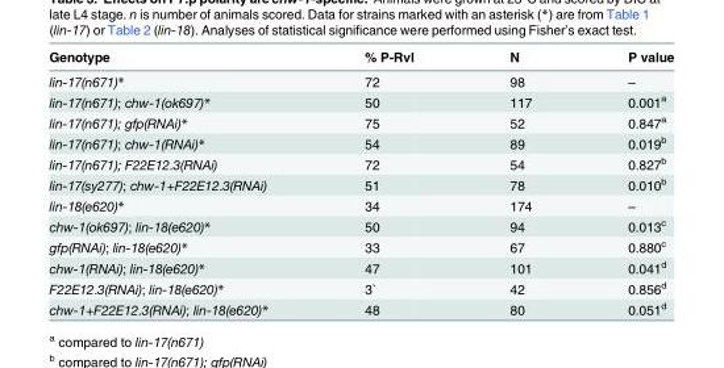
<table><thead><tr><td>Genotype</td><td>% P-Rvl</td><td>N</td><td>P value</td></tr></thead><tbody><tr><td>lin-17(n671)*</td><td>72</td><td>98</td><td>–</td></tr><tr><td>lin-17(n671); chw-1(ok697)*</td><td>50</td><td>117</td><td>0.001<sup>a</sup></td></tr><tr><td>lin-17(n671); gfp(RNAi)*</td><td>75</td><td>52</td><td>0.847<sup>a</sup></td></tr><tr><td>lin-17(n671); chw-1(RNAi)*</td><td>54</td><td>89</td><td>0.019<sup>b</sup></td></tr><tr><td>lin-17(n671); F22E12.3(RNAi)</td><td>72</td><td>54</td><td>0.827<sup>b</sup></td></tr><tr><td>lin-17(sy277); chw-1+F22E12.3(RNAi)</td><td>51</td><td>78</td><td>0.010<sup>b</sup></td></tr><tr><td>lin-18(e620)*</td><td>34</td><td>174</td><td>–</td></tr><tr><td>chw-1(ok697); lin-18(e620)*</td><td>50</td><td>94</td><td>0.013<sup>c</sup></td></tr><tr><td>gfp(RNAi); lin-18(e620)*</td><td>33</td><td>67</td><td>0.880<sup>c</sup></td></tr><tr><td>chw-1(RNAi); lin-18(e620)*</td><td>47</td><td>101</td><td>0.041<sup>d</sup></td></tr><tr><td>F22E12.3(RNAi); lin-18(e620)*</td><td>3`</td><td>42</td><td>0.856<sup>d</sup></td></tr><tr><td>chw-1+F22E12.3(RNAi); lin-18(e620)*</td><td>48</td><td>80</td><td>0.051<sup>d</sup></td></tr></tbody></table>